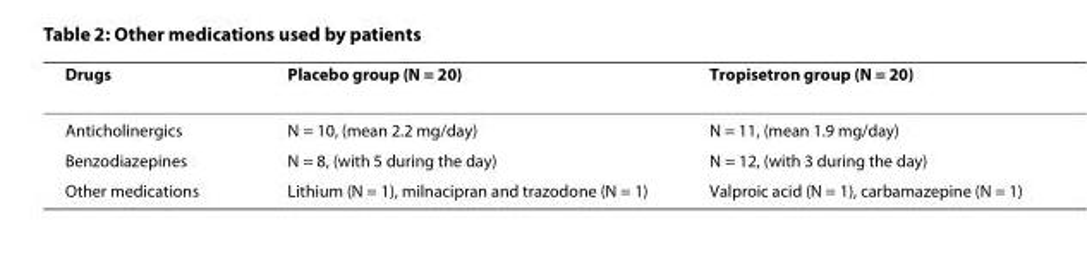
<table><thead><tr><td>Drugs</td><td>Placebo group (N = 20)</td><td>Tropisetron group (N = 20)</td></tr></thead><tbody><tr><td>Anticholinergics</td><td>N = 10, (mean 2.2 mg/day)</td><td>N = 11, (mean 1.9 mg/day)</td></tr><tr><td>Benzodiazepines</td><td>N = 8, (with 5 during the day)</td><td>N = 12, (with 3 during the day)</td></tr><tr><td>Other medications</td><td>Lithium (N = 1), milnacipran and trazodone (N = 1)</td><td>Valproic acid (N = 1), carbamazepine (N = 1)</td></tr></tbody></table>